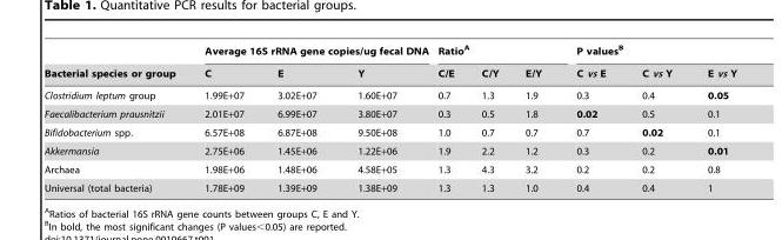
<table><thead><tr><td rowspan="2">Bacterial species or group</td><td colspan="3">Average 16S rRNA gene copies/ug fecal DNA</td><td colspan="3">Ratio<sup>A</sup></td><td colspan="3">P values<sup>B</sup></td></tr><tr><td>C</td><td>E</td><td>Y</td><td>C/E</td><td>C/Y</td><td>E/Y</td><td>C vs E</td><td>C vs Y</td><td>E vs Y</td></tr></thead><tbody><tr><td>Clostridium leptum group</td><td>1.99E+07</td><td>3.02E+07</td><td>1.60E+07</td><td>0.7</td><td>1.3</td><td>1.9</td><td>0.3</td><td>0.4</td><td>0.05</td></tr><tr><td>Faecalibacterium prausnitzii</td><td>2.01E+07</td><td>6.99E+07</td><td>3.80E+07</td><td>0.3</td><td>0.5</td><td>1.8</td><td>0.02</td><td>0.5</td><td>0.1</td></tr><tr><td>Bifidobacterium spp.</td><td>6.57E+08</td><td>6.87E+08</td><td>9.50E+08</td><td>1.0</td><td>0.7</td><td>0.7</td><td>0.7</td><td>0.02</td><td>0.1</td></tr><tr><td>Akkermansia</td><td>2.75E+06</td><td>1.45E+06</td><td>1.22E+06</td><td>1.9</td><td>2.2</td><td>1.2</td><td>0.3</td><td>0.2</td><td>0.01</td></tr><tr><td>Archaea</td><td>1.98E+06</td><td>1.48E+06</td><td>4.58E+05</td><td>1.3</td><td>4.3</td><td>3.2</td><td>0.2</td><td>0.2</td><td>0.8</td></tr><tr><td>Universal (total bacteria)</td><td>1.78E+09</td><td>1.39E+09</td><td>1.38E+09</td><td>1.3</td><td>1.3</td><td>1.0</td><td>0.4</td><td>0.4</td><td>1</td></tr></tbody></table>